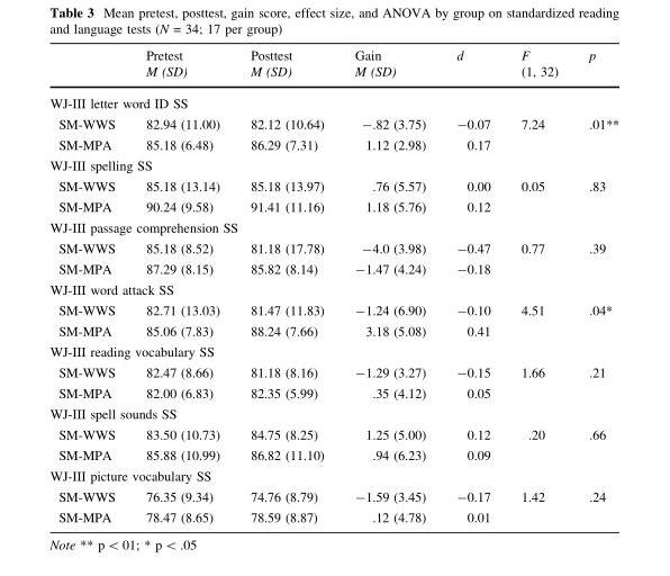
<table><thead><tr><td rowspan="2"></td><td rowspan="2">Pretest M (SD)</td><td rowspan="2">Posttest M (SD)</td><td rowspan="2">Gain M (SD)</td><td rowspan="2">d</td><td rowspan="2">F (1, 32)</td><td rowspan="2">p</td></tr><tr></tr></thead><tbody><tr><td colspan="7">WJ-III letter word ID SS</td></tr><tr><td>SM-WWS</td><td>82.94 (11.00)</td><td>82.12 (10.64)</td><td>-.82 (3.75)</td><td>-0.07</td><td>7.24</td><td>.01**</td></tr><tr><td>SM-MPA</td><td>85.18 (6.48)</td><td>86.29 (7.31)</td><td>1.12 (2.98)</td><td>0.17</td><td></td><td></td></tr><tr><td colspan="7">WJ-III spelling SS</td></tr><tr><td>SM-WWS</td><td>85.18 (13.14)</td><td>85.18 (13.97)</td><td>.76 (5.57)</td><td>0.00</td><td>0.05</td><td>.83</td></tr><tr><td>SM-MPA</td><td>90.24 (9.58)</td><td>91.41 (11.16)</td><td>1.18 (5.76)</td><td>0.12</td><td></td><td></td></tr><tr><td colspan="7">WJ-III passage comprehension SS</td></tr><tr><td>SM-WWS</td><td>85.18 (8.52)</td><td>81.18 (17.78)</td><td>-4.0 (3.98)</td><td>-0.47</td><td>0.77</td><td>.39</td></tr><tr><td>SM-MPA</td><td>87.29 (8.15)</td><td>85.82 (8.14)</td><td>-1.47 (4.24)</td><td>-0.18</td><td></td><td></td></tr><tr><td colspan="7">WJ-III word attack SS</td></tr><tr><td>SM-WWS</td><td>82.71 (13.03)</td><td>81.47 (11.83)</td><td>-1.24 (6.90)</td><td>-0.10</td><td>4.51</td><td>.04*</td></tr><tr><td>SM-MPA</td><td>85.06 (7.83)</td><td>88.24 (7.66)</td><td>3.18 (5.08)</td><td>0.41</td><td></td><td></td></tr><tr><td colspan="7">WJ-III reading vocabulary SS</td></tr><tr><td>SM-WWS</td><td>82.47 (8.66)</td><td>81.18 (8.16)</td><td>-1.29 (3.27)</td><td>-0.15</td><td>1.66</td><td>.21</td></tr><tr><td>SM-MPA</td><td>82.00 (6.83)</td><td>82.35 (5.99)</td><td>.35 (4.12)</td><td>0.05</td><td></td><td></td></tr><tr><td colspan="7">WJ-III spell sounds SS</td></tr><tr><td>SM-WWS</td><td>83.50 (10.73)</td><td>84.75 (8.25)</td><td>1.25 (5.00)</td><td>0.12</td><td>.20</td><td>.66</td></tr><tr><td>SM-MPA</td><td>85.88 (10.99)</td><td>86.82 (11.10)</td><td>.94 (6.23)</td><td>0.09</td><td></td><td></td></tr><tr><td colspan="7">WJ-III picture vocabulary SS</td></tr><tr><td>SM-WWS</td><td>76.35 (9.34)</td><td>74.76 (8.79)</td><td>-1.59 (3.45)</td><td>-0.17</td><td>1.42</td><td>.24</td></tr><tr><td>SM-MPA</td><td>78.47 (8.65)</td><td>78.59 (8.87)</td><td>.12 (4.78)</td><td>0.01</td><td></td><td></td></tr></tbody></table>